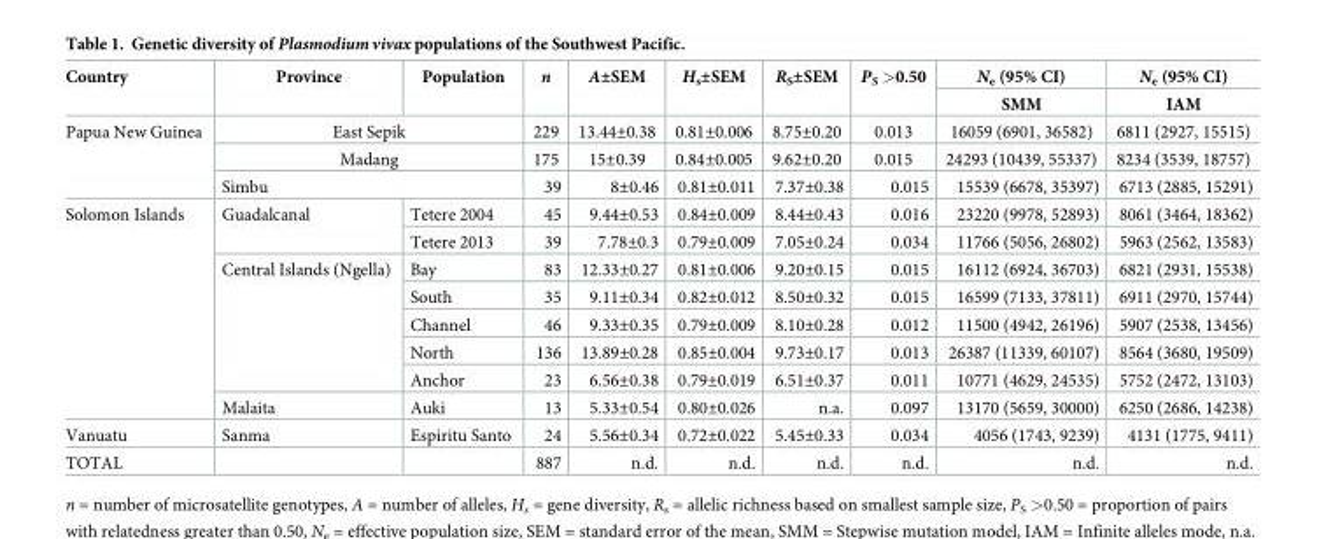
<table><thead><tr><td rowspan="2">Country</td><td rowspan="2">Province</td><td rowspan="2">Population</td><td rowspan="2">n</td><td rowspan="2">A±SEM</td><td rowspan="2">H<sub>s</sub>±SEM</td><td rowspan="2">R<sub>S</sub>±SEM</td><td rowspan="2">P<sub>S</sub> &gt;0.50</td><td rowspan="2">N<sub>e</sub> (95% CI) SMM</td><td rowspan="2">N<sub>e</sub> (95% CI) IAM</td></tr><tr></tr></thead><tbody><tr><td rowspan="3">Papua New Guinea</td><td colspan="2">East Sepik</td><td>229</td><td>13.44±0.38</td><td>0.81±0.006</td><td>8.75±0.20</td><td>0.013</td><td>16059 (6901, 36582)</td><td>6811 (2927, 15515)</td></tr><tr><td colspan="2">Madang</td><td>175</td><td>15±0.39</td><td>0.84±0.005</td><td>9.62±0.20</td><td>0.015</td><td>24293 (10439, 55337)</td><td>8234 (3539, 18757)</td></tr><tr><td colspan="2">Simbu</td><td>39</td><td>8±0.46</td><td>0.81±0.011</td><td>7.37±0.38</td><td>0.015</td><td>15539 (6678, 35397)</td><td>6713 (2885, 15291)</td></tr><tr><td rowspan="8">Solomon Islands</td><td rowspan="2">Guadalcanal</td><td>Tetere 2004</td><td>45</td><td>9.44±0.53</td><td>0.84±0.009</td><td>8.44±0.43</td><td>0.016</td><td>23220 (9978, 52893)</td><td>8061 (3464, 18362)</td></tr><tr><td>Tetere 2013</td><td>39</td><td>7.78±0.3</td><td>0.79±0.009</td><td>7.05±0.24</td><td>0.034</td><td>11766 (5056, 26802)</td><td>5963 (2562, 13583)</td></tr><tr><td rowspan="5">Central Islands (Ngella)</td><td>Bay</td><td>83</td><td>12.33±0.27</td><td>0.81±0.006</td><td>9.20±0.15</td><td>0.015</td><td>16112 (6924, 36703)</td><td>6821 (2931, 15538)</td></tr><tr><td>South</td><td>35</td><td>9.11±0.34</td><td>0.82±0.012</td><td>8.50±0.32</td><td>0.015</td><td>16599 (7133, 37811)</td><td>6911 (2970, 15744)</td></tr><tr><td>Channel</td><td>46</td><td>9.33±0.35</td><td>0.79±0.009</td><td>8.10±0.28</td><td>0.012</td><td>11500 (4942, 26196)</td><td>5907 (2538, 13456)</td></tr><tr><td>North</td><td>136</td><td>13.89±0.28</td><td>0.85±0.004</td><td>9.73±0.17</td><td>0.013</td><td>26387 (11339, 60107)</td><td>8564 (3680, 19509)</td></tr><tr><td>Anchor</td><td>23</td><td>6.56±0.38</td><td>0.79±0.019</td><td>6.51±0.37</td><td>0.011</td><td>10771 (4629, 24535)</td><td>5752 (2472, 13103)</td></tr><tr><td>Malaita</td><td>Auki</td><td>13</td><td>5.33±0.54</td><td>0.80±0.026</td><td>n.a.</td><td>0.097</td><td>13170 (5659, 30000)</td><td>6250 (2686, 14238)</td></tr><tr><td>Vanuatu</td><td>Sanma</td><td>Espiritu Santo</td><td>24</td><td>5.56±0.34</td><td>0.72±0.022</td><td>5.45±0.33</td><td>0.034</td><td>4056 (1743, 9239)</td><td>4131 (1775, 9411)</td></tr><tr><td>TOTAL</td><td></td><td></td><td>887</td><td>n.d.</td><td>n.d.</td><td>n.d.</td><td>n.d.</td><td>n.d.</td><td>n.d.</td></tr></tbody></table>